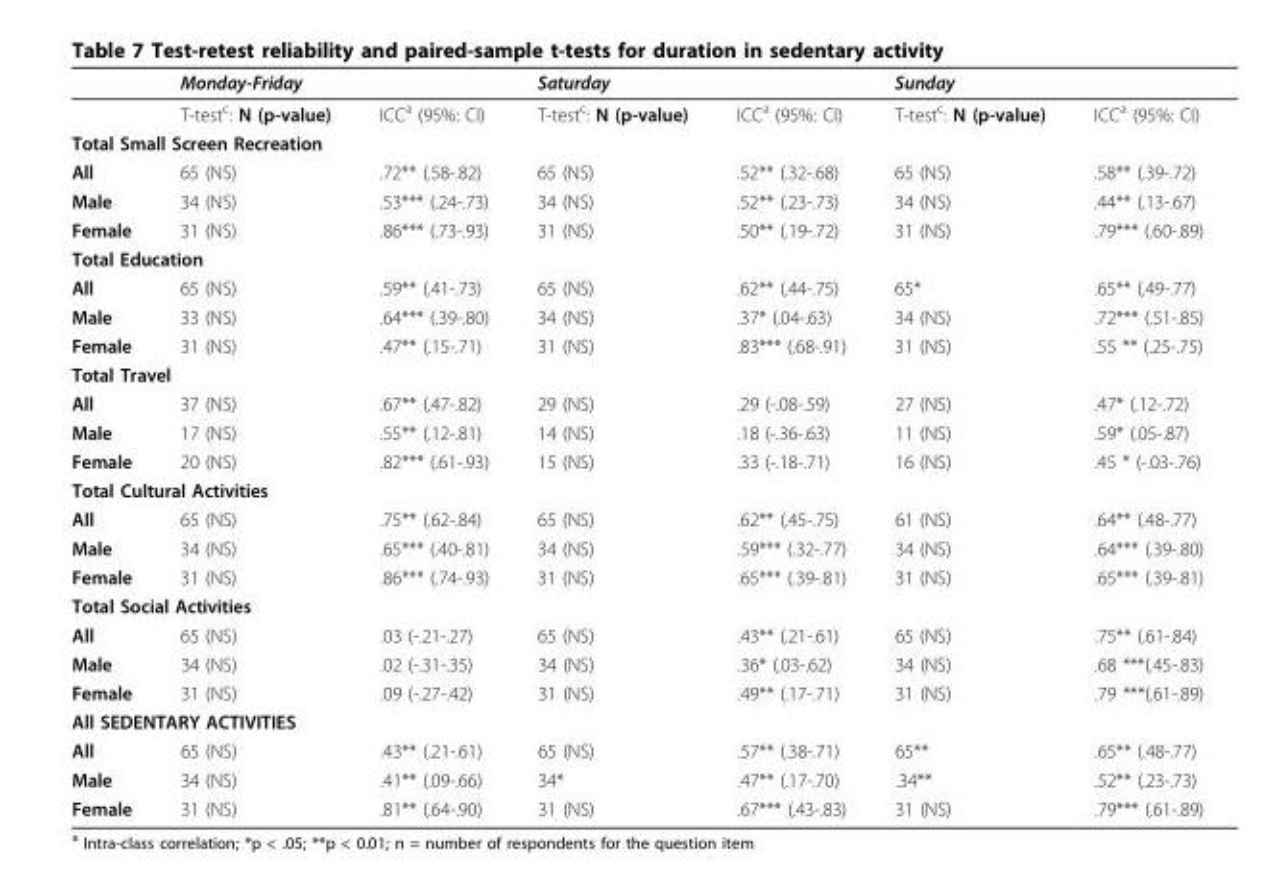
<table><thead><tr><td rowspan="2"></td><td colspan="2">Monday-Friday</td><td colspan="2">Saturday</td><td colspan="2">Sunday</td></tr><tr><td>T-test<sup>c</sup>: N (p-value)</td><td>ICC<sup>a</sup> (95%: CI)</td><td>T-test<sup>c</sup>: N (p-value)</td><td>ICC<sup>a</sup> (95%: CI)</td><td>T-test<sup>c</sup>: N (p-value)</td><td>ICC<sup>a</sup> (95%: CI)</td></tr></thead><tbody><tr><td colspan="7">Total Small Screen Recreation</td></tr><tr><td>All</td><td>65 (NS)</td><td>.72** (.58-.82)</td><td>65 (NS)</td><td>.52** (.32-.68)</td><td>65 (NS)</td><td>.58** (.39-.72)</td></tr><tr><td>Male</td><td>34 (NS)</td><td>.53*** (.24-.73)</td><td>34 (NS)</td><td>.52** (.23-.73)</td><td>34 (NS)</td><td>.44** (.13-.67)</td></tr><tr><td>Female</td><td>31 (NS)</td><td>.86*** (.73-.93)</td><td>31 (NS)</td><td>.50** (.19-.72)</td><td>31 (NS)</td><td>.79*** (.60-.89)</td></tr><tr><td colspan="7">Total Education</td></tr><tr><td>All</td><td>65 (NS)</td><td>.59** (.41-.73)</td><td>65 (NS)</td><td>.62** (.44-.75)</td><td>65*</td><td>.65** (.49-.77)</td></tr><tr><td>Male</td><td>33 (NS)</td><td>.64*** (.39-.80)</td><td>34 (NS)</td><td>.37* (.04-.63)</td><td>34 (NS)</td><td>.72*** (.51-.85)</td></tr><tr><td>Female</td><td>31 (NS)</td><td>.47** (.15-.71)</td><td>31 (NS)</td><td>.83*** (.68-.91)</td><td>31 (NS)</td><td>.55 ** (.25-.75)</td></tr><tr><td colspan="7">Total Travel</td></tr><tr><td>All</td><td>37 (NS)</td><td>.67** (.47-.82)</td><td>29 (NS)</td><td>.29 (-.08-.59)</td><td>27 (NS)</td><td>.47* (.12-.72)</td></tr><tr><td>Male</td><td>17 (NS)</td><td>.55** (.12-.81)</td><td>14 (NS)</td><td>.18 (-.36-.63)</td><td>11 (NS)</td><td>.59* (.05-.87)</td></tr><tr><td>Female</td><td>20 (NS)</td><td>.82*** (.61-.93)</td><td>15 (NS)</td><td>.33 (-.18-.71)</td><td>16 (NS)</td><td>.45 * (-.03-.76)</td></tr><tr><td colspan="7">Total Cultural Activities</td></tr><tr><td>All</td><td>65 (NS)</td><td>.75** (.62-.84)</td><td>65 (NS)</td><td>.62** (.45-.75)</td><td>61 (NS)</td><td>.64** (.48-.77)</td></tr><tr><td>Male</td><td>34 (NS)</td><td>.65*** (.40-.81)</td><td>34 (NS)</td><td>.59*** (.32-.77)</td><td>34 (NS)</td><td>.64*** (.39-.80)</td></tr><tr><td>Female</td><td>31 (NS)</td><td>.86*** (.74-.93)</td><td>31 (NS)</td><td>.65*** (.39-.81)</td><td>31 (NS)</td><td>.65*** (.39-.81)</td></tr><tr><td colspan="7">Total Social Activities</td></tr><tr><td>All</td><td>65 (NS)</td><td>.03 (-.21-.27)</td><td>65 (NS)</td><td>.43** (.21-.61)</td><td>65 (NS)</td><td>.75** (.61-.84)</td></tr><tr><td>Male</td><td>34 (NS)</td><td>.02 (-.31-.35)</td><td>34 (NS)</td><td>.36* (.03-.62)</td><td>34 (NS)</td><td>.68 ***(.45-.83)</td></tr><tr><td>Female</td><td>31 (NS)</td><td>.09 (-.27-.42)</td><td>31 (NS)</td><td>.49** (.17-.71)</td><td>31 (NS)</td><td>.79 ***(.61-.89)</td></tr><tr><td colspan="7">All SEDENTARY ACTIVITIES</td></tr><tr><td>All</td><td>65 (NS)</td><td>.43** (.21-.61)</td><td>65 (NS)</td><td>.57** (.38-.71)</td><td>65**</td><td>.65** (.48-.77)</td></tr><tr><td>Male</td><td>34 (NS)</td><td>.41** (.09-.66)</td><td>34*</td><td>.47** (.17-.70)</td><td>.34**</td><td>.52** (.23-.73)</td></tr><tr><td>Female</td><td>31 (NS)</td><td>.81** (.64-.90)</td><td>31 (NS)</td><td>.67*** (.43-.83)</td><td>31 (NS)</td><td>.79*** (.61-.89)</td></tr></tbody></table>